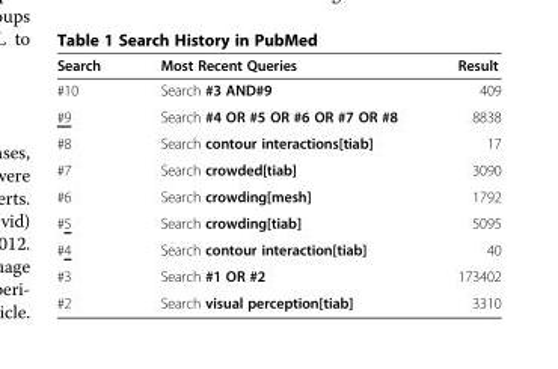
<table><thead><tr><td>Search</td><td>Most Recent Queries</td><td>Result</td></tr></thead><tbody><tr><td>#10</td><td>Search #3 AND#9</td><td>409</td></tr><tr><td>#9</td><td>Search #4 OR #5 OR #6 OR #7 OR #8</td><td>8838</td></tr><tr><td>#8</td><td>Search contour interactions[tiab]</td><td>17</td></tr><tr><td>#7</td><td>Search crowded[tiab]</td><td>3090</td></tr><tr><td>#6</td><td>Search crowding[mesh]</td><td>1792</td></tr><tr><td>#5</td><td>Search crowding[tiab]</td><td>5095</td></tr><tr><td>#4</td><td>Search contour interaction[tiab]</td><td>40</td></tr><tr><td>#3</td><td>Search #1 OR #2</td><td>173402</td></tr><tr><td>#2</td><td>Search visual perception[tiab]</td><td>3310</td></tr></tbody></table>